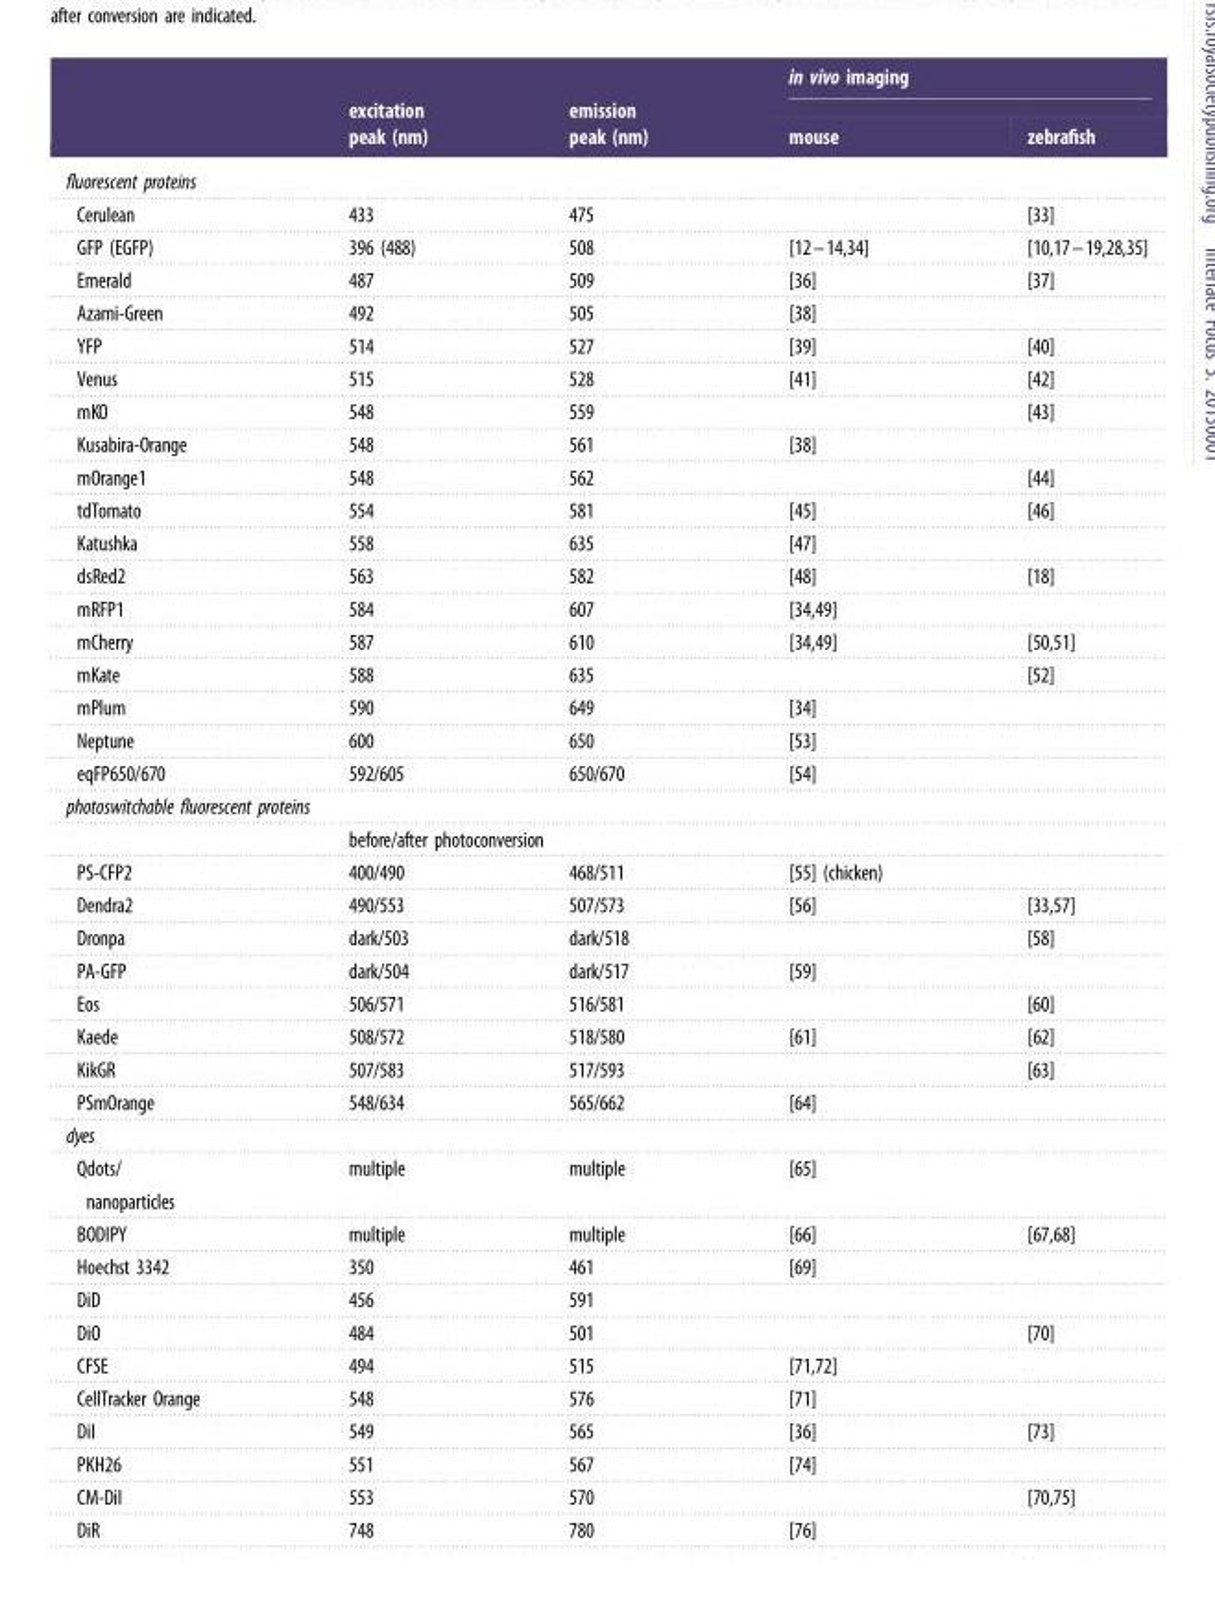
<table><thead><tr><td rowspan="2"></td><td rowspan="2">excitation peak (nm)</td><td rowspan="2">emission peak (nm)</td><td colspan="2">in vivo imaging</td></tr><tr><td>mouse</td><td>zebrafish</td></tr></thead><tbody><tr><td colspan="5">fluorescent proteins</td></tr><tr><td>Cerulean</td><td>433</td><td>475</td><td></td><td>[33]</td></tr><tr><td>GFP (EGFP)</td><td>396 (488)</td><td>508</td><td>[12–14,34]</td><td>[10,17–19,28,35]</td></tr><tr><td>Emerald</td><td>487</td><td>509</td><td>[36]</td><td>[37]</td></tr><tr><td>Azami-Green</td><td>492</td><td>505</td><td>[38]</td><td></td></tr><tr><td>YFP</td><td>514</td><td>527</td><td>[39]</td><td>[40]</td></tr><tr><td>Venus</td><td>515</td><td>528</td><td>[41]</td><td>[42]</td></tr><tr><td>mKO</td><td>548</td><td>559</td><td></td><td>[43]</td></tr><tr><td>Kusabira-Orange</td><td>548</td><td>561</td><td>[38]</td><td></td></tr><tr><td>mOrange1</td><td>548</td><td>562</td><td></td><td>[44]</td></tr><tr><td>tdTomato</td><td>554</td><td>581</td><td>[45]</td><td>[46]</td></tr><tr><td>Katushka</td><td>558</td><td>635</td><td>[47]</td><td></td></tr><tr><td>dsRed2</td><td>563</td><td>582</td><td>[48]</td><td>[18]</td></tr><tr><td>mRFP1</td><td>584</td><td>607</td><td>[34,49]</td><td></td></tr><tr><td>mCherry</td><td>587</td><td>610</td><td>[34,49]</td><td>[50,51]</td></tr><tr><td>mKate</td><td>588</td><td>635</td><td></td><td>[52]</td></tr><tr><td>mPlum</td><td>590</td><td>649</td><td>[34]</td><td></td></tr><tr><td>Neptune</td><td>600</td><td>650</td><td>[53]</td><td></td></tr><tr><td>eqFP650/670</td><td>592/605</td><td>650/670</td><td>[54]</td><td></td></tr><tr><td colspan="5">photoswitchable fluorescent proteins</td></tr><tr><td></td><td colspan="2">before/after photoconversion</td><td></td><td></td></tr><tr><td>PS-CFP2</td><td>400/490</td><td>468/511</td><td>[55] (chicken)</td><td></td></tr><tr><td>Dendra2</td><td>490/553</td><td>507/573</td><td>[56]</td><td>[33,57]</td></tr><tr><td>Dronpa</td><td>dark/503</td><td>dark/518</td><td></td><td>[58]</td></tr><tr><td>PA-GFP</td><td>dark/504</td><td>dark/517</td><td>[59]</td><td></td></tr><tr><td>Eos</td><td>506/571</td><td>516/581</td><td></td><td>[60]</td></tr><tr><td>Kaede</td><td>508/572</td><td>518/580</td><td>[61]</td><td>[62]</td></tr><tr><td>KikGR</td><td>507/583</td><td>517/593</td><td></td><td>[63]</td></tr><tr><td>PSmOrange</td><td>548/634</td><td>565/662</td><td>[64]</td><td></td></tr><tr><td colspan="5">dyes</td></tr><tr><td>Qdots/ nanoparticles</td><td>multiple</td><td>multiple</td><td>[65]</td><td></td></tr><tr><td>BODIPY</td><td>multiple</td><td>multiple</td><td>[66]</td><td>[67,68]</td></tr><tr><td>Hoechst 3342</td><td>350</td><td>461</td><td>[69]</td><td></td></tr><tr><td>DiD</td><td>456</td><td>591</td><td></td><td></td></tr><tr><td>DiO</td><td>484</td><td>501</td><td></td><td>[70]</td></tr><tr><td>CFSE</td><td>494</td><td>515</td><td>[71,72]</td><td></td></tr><tr><td>CellTracker Orange</td><td>548</td><td>576</td><td>[71]</td><td></td></tr><tr><td>DiI</td><td>549</td><td>565</td><td>[36]</td><td>[73]</td></tr><tr><td>PKH26</td><td>551</td><td>567</td><td>[74]</td><td></td></tr><tr><td>CM-DiI</td><td>553</td><td>570</td><td></td><td>[70,75]</td></tr><tr><td>DiR</td><td>748</td><td>780</td><td>[76]</td><td></td></tr></tbody></table>